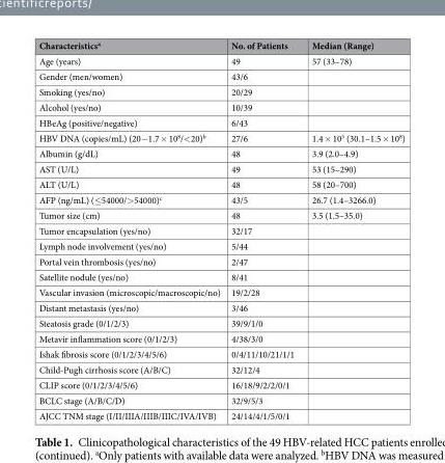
<table><thead><tr><td>Characteristics<sup>a</sup></td><td>No. of Patients</td><td>Median (Range)</td></tr></thead><tbody><tr><td>Age (years)</td><td>49</td><td>57 (33–78)</td></tr><tr><td>Gender (men/women)</td><td>43/6</td><td></td></tr><tr><td>Smoking (yes/no)</td><td>20/29</td><td></td></tr><tr><td>Alcohol (yes/no)</td><td>10/39</td><td></td></tr><tr><td>HBeAg (positive/negative)</td><td>6/43</td><td></td></tr><tr><td>HBV DNA (copies/mL) (20−1.7 × 10<sup>8</sup>/&lt;20)<sup>b</sup></td><td>27/6</td><td>1.4 × 10<sup>5</sup> (30.1–1.5 × 10<sup>8</sup>)</td></tr><tr><td>Albumin (g/dL)</td><td>48</td><td>3.9 (2.0–4.9)</td></tr><tr><td>AST (U/L)</td><td>49</td><td>53 (15–290)</td></tr><tr><td>ALT (U/L)</td><td>48</td><td>58 (20–700)</td></tr><tr><td>AFP (ng/mL) (≤54000/&gt;54000)<sup>c</sup></td><td>43/5</td><td>26.7 (1.4–3266.0)</td></tr><tr><td>Tumor size (cm)</td><td>48</td><td>3.5 (1.5–35.0)</td></tr><tr><td>Tumor encapsulation (yes/no)</td><td>32/17</td><td></td></tr><tr><td>Lymph node involvement (yes/no)</td><td>5/44</td><td></td></tr><tr><td>Portal vein thrombosis (yes/no)</td><td>2/47</td><td></td></tr><tr><td>Satellite nodule (yes/no)</td><td>8/41</td><td></td></tr><tr><td>Vascular invasion (microscopic/macroscopic/no)</td><td>19/2/28</td><td></td></tr><tr><td>Distant metastasis (yes/no)</td><td>3/46</td><td></td></tr><tr><td>Steatosis grade (0/1/2/3)</td><td>39/9/1/0</td><td></td></tr><tr><td>Metavir inflammation score (0/1/2/3)</td><td>4/38/3/0</td><td></td></tr><tr><td>Ishak fibrosis score (0/1/2/3/4/5/6)</td><td>0/4/11/10/21/1/1</td><td></td></tr><tr><td>Child-Pugh cirrhosis score (A/B/C)</td><td>32/12/4</td><td></td></tr><tr><td>CLIP score (0/1/2/3/4/5/6)</td><td>16/18/9/2/2/0/1</td><td></td></tr><tr><td>BCLC stage (A/B/C/D)</td><td>32/9/5/3</td><td></td></tr><tr><td>AJCC TNM stage (I/II/IIIA/IIIB/IIIC/IVA/IVB)</td><td>24/14/4/1/5/0/1</td><td></td></tr></tbody></table>